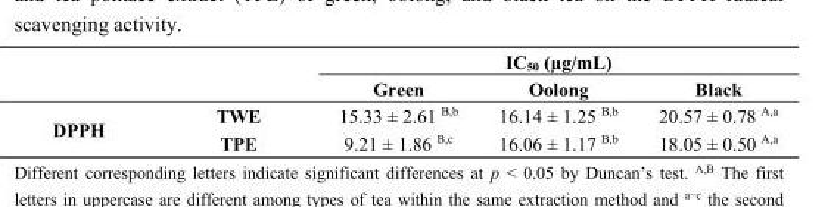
<table><thead><tr><td rowspan="2"></td><td rowspan="2"></td><td colspan="3">IC<sub>50</sub> (µg/mL)</td></tr><tr><td>Green</td><td>Oolong</td><td>Black</td></tr></thead><tbody><tr><td rowspan="2">DPPH</td><td>TWE</td><td>15.33 ± 2.61 <sup>B,b</sup></td><td>16.14 ± 1.25 <sup>B,b</sup></td><td>20.57 ± 0.78 <sup>A,a</sup></td></tr><tr><td>TPE</td><td>9.21 ± 1.86 <sup>B,c</sup></td><td>16.06 ± 1.17 <sup>B,b</sup></td><td>18.05 ± 0.50 <sup>A,a</sup></td></tr></tbody></table>